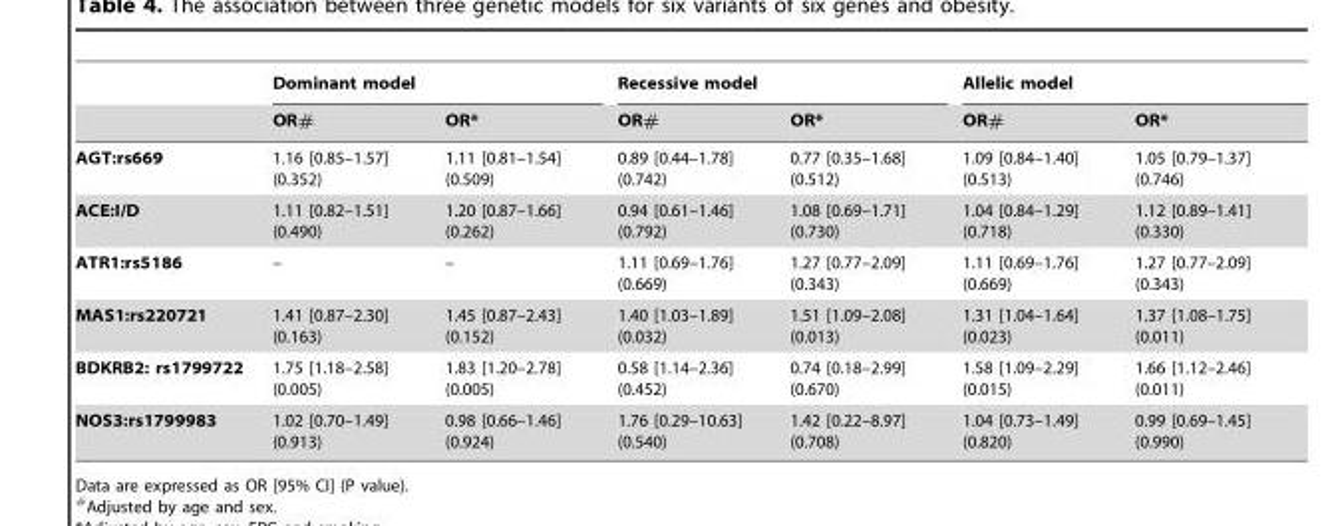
<table><thead><tr><td rowspan="2"></td><td colspan="2">Dominant model</td><td colspan="2">Recessive model</td><td colspan="2">Allelic model</td></tr><tr><td>OR#</td><td>OR*</td><td>OR#</td><td>OR*</td><td>OR#</td><td>OR*</td></tr></thead><tbody><tr><td>AGT:rs669</td><td>1.16 [0.85–1.57] (0.352)</td><td>1.11 [0.81–1.54] (0.509)</td><td>0.89 [0.44–1.78] (0.742)</td><td>0.77 [0.35–1.68] (0.512)</td><td>1.09 [0.84–1.40] (0.513)</td><td>1.05 [0.79–1.37] (0.746)</td></tr><tr><td>ACE:I/D</td><td>1.11 [0.82–1.51] (0.490)</td><td>1.20 [0.87–1.66] (0.262)</td><td>0.94 [0.61–1.46] (0.792)</td><td>1.08 [0.69–1.71] (0.730)</td><td>1.04 [0.84–1.29] (0.718)</td><td>1.12 [0.89–1.41] (0.330)</td></tr><tr><td>ATR1:rs5186</td><td>–</td><td>–</td><td>1.11 [0.69–1.76] (0.669)</td><td>1.27 [0.77–2.09] (0.343)</td><td>1.11 [0.69–1.76] (0.669)</td><td>1.27 [0.77–2.09] (0.343)</td></tr><tr><td>MAS1:rs220721</td><td>1.41 [0.87–2.30] (0.163)</td><td>1.45 [0.87–2.43] (0.152)</td><td>1.40 [1.03–1.89] (0.032)</td><td>1.51 [1.09–2.08] (0.013)</td><td>1.31 [1.04–1.64] (0.023)</td><td>1.37 [1.08–1.75] (0.011)</td></tr><tr><td>BDKRB2: rs1799722</td><td>1.75 [1.18–2.58] (0.005)</td><td>1.83 [1.20–2.78] (0.005)</td><td>0.58 [1.14–2.36] (0.452)</td><td>0.74 [0.18–2.99] (0.670)</td><td>1.58 [1.09–2.29] (0.015)</td><td>1.66 [1.12–2.46] (0.011)</td></tr><tr><td>NOS3:rs1799983</td><td>1.02 [0.70–1.49] (0.913)</td><td>0.98 [0.66–1.46] (0.924)</td><td>1.76 [0.29–10.63] (0.540)</td><td>1.42 [0.22–8.97] (0.708)</td><td>1.04 [0.73–1.49] (0.820)</td><td>0.99 [0.69–1.45] (0.990)</td></tr></tbody></table>